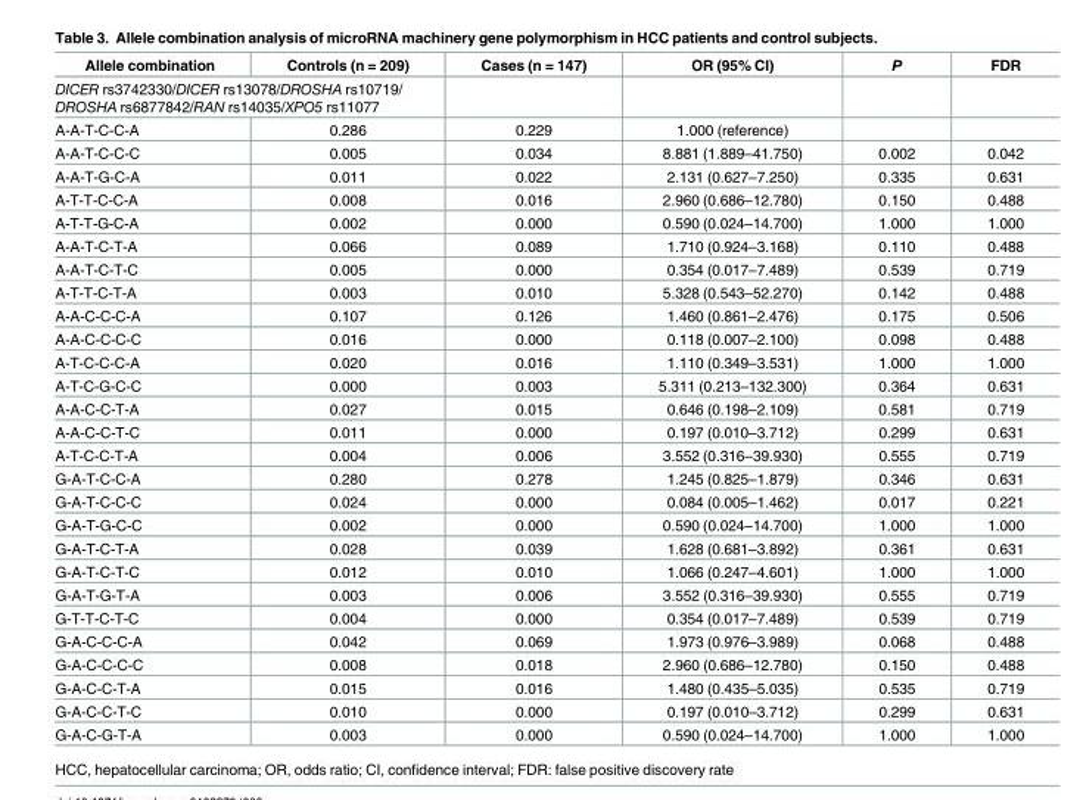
<table><thead><tr><td>Allele combination</td><td>Controls (n = 209)</td><td>Cases (n = 147)</td><td>OR (95% CI)</td><td>P</td><td>FDR</td></tr></thead><tbody><tr><td colspan="6">DICER rs3742330/DICER rs13078/DROSHA rs10719/ DROSHA rs6877842/RAN rs14035/XPO5 rs11077</td></tr><tr><td>A-A-T-C-C-A</td><td>0.286</td><td>0.229</td><td>1.000 (reference)</td><td></td><td></td></tr><tr><td>A-A-T-C-C-C</td><td>0.005</td><td>0.034</td><td>8.881 (1.889–41.750)</td><td>0.002</td><td>0.042</td></tr><tr><td>A-A-T-G-C-A</td><td>0.011</td><td>0.022</td><td>2.131 (0.627–7.250)</td><td>0.335</td><td>0.631</td></tr><tr><td>A-T-T-C-C-A</td><td>0.008</td><td>0.016</td><td>2.960 (0.686–12.780)</td><td>0.150</td><td>0.488</td></tr><tr><td>A-T-T-G-C-A</td><td>0.002</td><td>0.000</td><td>0.590 (0.024–14.700)</td><td>1.000</td><td>1.000</td></tr><tr><td>A-A-T-C-T-A</td><td>0.066</td><td>0.089</td><td>1.710 (0.924–3.168)</td><td>0.110</td><td>0.488</td></tr><tr><td>A-A-T-C-T-C</td><td>0.005</td><td>0.000</td><td>0.354 (0.017–7.489)</td><td>0.539</td><td>0.719</td></tr><tr><td>A-T-T-C-T-A</td><td>0.003</td><td>0.010</td><td>5.328 (0.543–52.270)</td><td>0.142</td><td>0.488</td></tr><tr><td>A-A-C-C-C-A</td><td>0.107</td><td>0.126</td><td>1.460 (0.861–2.476)</td><td>0.175</td><td>0.506</td></tr><tr><td>A-A-C-C-C-C</td><td>0.016</td><td>0.000</td><td>0.118 (0.007–2.100)</td><td>0.098</td><td>0.488</td></tr><tr><td>A-T-C-C-C-A</td><td>0.020</td><td>0.016</td><td>1.110 (0.349–3.531)</td><td>1.000</td><td>1.000</td></tr><tr><td>A-T-C-G-C-C</td><td>0.000</td><td>0.003</td><td>5.311 (0.213–132.300)</td><td>0.364</td><td>0.631</td></tr><tr><td>A-A-C-C-T-A</td><td>0.027</td><td>0.015</td><td>0.646 (0.198–2.109)</td><td>0.581</td><td>0.719</td></tr><tr><td>A-A-C-C-T-C</td><td>0.011</td><td>0.000</td><td>0.197 (0.010–3.712)</td><td>0.299</td><td>0.631</td></tr><tr><td>A-T-C-C-T-A</td><td>0.004</td><td>0.006</td><td>3.552 (0.316–39.930)</td><td>0.555</td><td>0.719</td></tr><tr><td>G-A-T-C-C-A</td><td>0.280</td><td>0.278</td><td>1.245 (0.825–1.879)</td><td>0.346</td><td>0.631</td></tr><tr><td>G-A-T-C-C-C</td><td>0.024</td><td>0.000</td><td>0.084 (0.005–1.462)</td><td>0.017</td><td>0.221</td></tr><tr><td>G-A-T-G-C-C</td><td>0.002</td><td>0.000</td><td>0.590 (0.024–14.700)</td><td>1.000</td><td>1.000</td></tr><tr><td>G-A-T-C-T-A</td><td>0.028</td><td>0.039</td><td>1.628 (0.681–3.892)</td><td>0.361</td><td>0.631</td></tr><tr><td>G-A-T-C-T-C</td><td>0.012</td><td>0.010</td><td>1.066 (0.247–4.601)</td><td>1.000</td><td>1.000</td></tr><tr><td>G-A-T-G-T-A</td><td>0.003</td><td>0.006</td><td>3.552 (0.316–39.930)</td><td>0.555</td><td>0.719</td></tr><tr><td>G-T-T-C-T-C</td><td>0.004</td><td>0.000</td><td>0.354 (0.017–7.489)</td><td>0.539</td><td>0.719</td></tr><tr><td>G-A-C-C-C-A</td><td>0.042</td><td>0.069</td><td>1.973 (0.976–3.989)</td><td>0.068</td><td>0.488</td></tr><tr><td>G-A-C-C-C-C</td><td>0.008</td><td>0.018</td><td>2.960 (0.686–12.780)</td><td>0.150</td><td>0.488</td></tr><tr><td>G-A-C-C-T-A</td><td>0.015</td><td>0.016</td><td>1.480 (0.435–5.035)</td><td>0.535</td><td>0.719</td></tr><tr><td>G-A-C-C-T-C</td><td>0.010</td><td>0.000</td><td>0.197 (0.010–3.712)</td><td>0.299</td><td>0.631</td></tr><tr><td>G-A-C-G-T-A</td><td>0.003</td><td>0.000</td><td>0.590 (0.024–14.700)</td><td>1.000</td><td>1.000</td></tr></tbody></table>